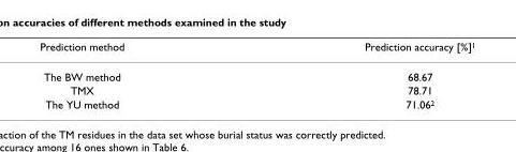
<table><thead><tr><td>Prediction method</td><td>Prediction accuracy [%]<sup>1</sup></td></tr></thead><tbody><tr><td>The BW method</td><td>68.67</td></tr><tr><td>TMX</td><td>78.71</td></tr><tr><td>The YU method</td><td>71.06<sup>2</sup></td></tr></tbody></table>